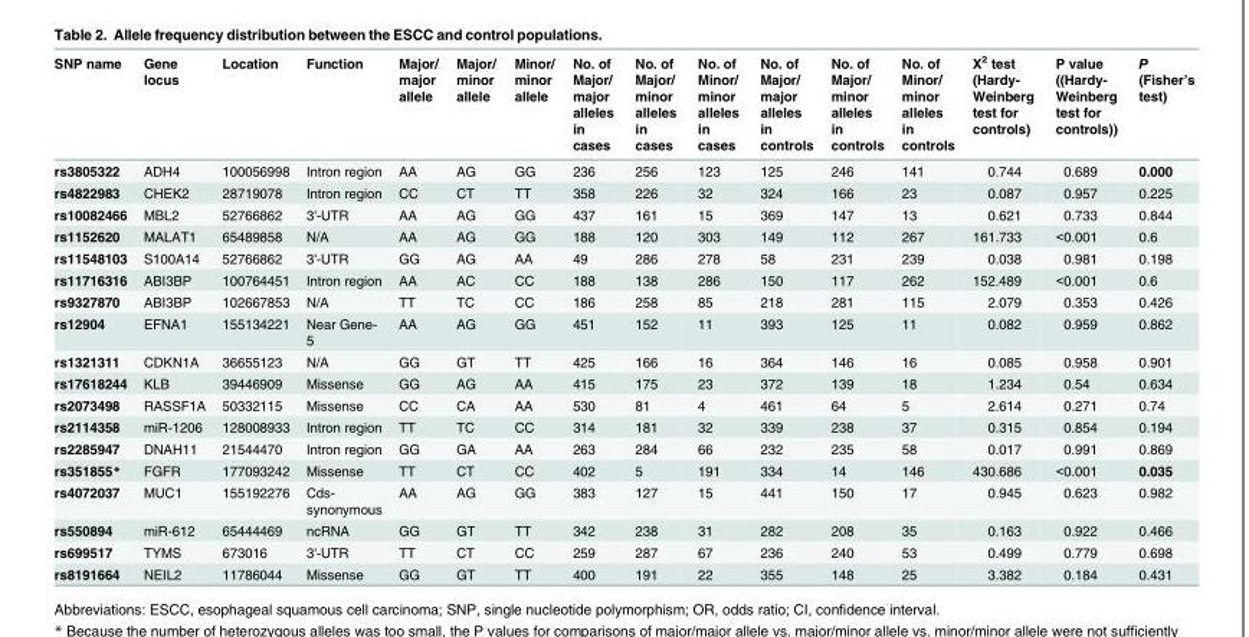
<table><thead><tr><td>SNP name</td><td>Gene locus</td><td>Location</td><td>Function</td><td>Major/ major allele</td><td>Major/ minor allele</td><td>Minor/ minor allele</td><td>No. of Major/ major alleles in cases</td><td>No. of Major/ minor alleles in cases</td><td>No. of Minor/ minor alleles in cases</td><td>No. of Major/ major alleles in controls</td><td>No. of Major/ minor alleles in controls</td><td>No. of Minor/ minor alleles in controls</td><td>X<sup>2</sup> test (Hardy- Weinberg test for controls)</td><td>P value ((Hardy- Weinberg test for controls))</td><td>P (Fisher’s test)</td></tr></thead><tbody><tr><td>rs3805322</td><td>ADH4</td><td>100056998</td><td>Intron region</td><td>AA</td><td>AG</td><td>GG</td><td>236</td><td>256</td><td>123</td><td>125</td><td>246</td><td>141</td><td>0.744</td><td>0.689</td><td>0.000</td></tr><tr><td>rs4822983</td><td>CHEK2</td><td>28719078</td><td>Intron region</td><td>CC</td><td>CT</td><td>TT</td><td>358</td><td>226</td><td>32</td><td>324</td><td>166</td><td>23</td><td>0.087</td><td>0.957</td><td>0.225</td></tr><tr><td>rs10082466</td><td>MBL2</td><td>52766862</td><td>3&#x27;-UTR</td><td>AA</td><td>AG</td><td>GG</td><td>437</td><td>161</td><td>15</td><td>369</td><td>147</td><td>13</td><td>0.621</td><td>0.733</td><td>0.844</td></tr><tr><td>rs1152620</td><td>MALAT1</td><td>65489858</td><td>N/A</td><td>AA</td><td>AG</td><td>GG</td><td>188</td><td>120</td><td>303</td><td>149</td><td>112</td><td>267</td><td>161.733</td><td>&lt;0.001</td><td>0.6</td></tr><tr><td>rs11548103</td><td>S100A14</td><td>52766862</td><td>3&#x27;-UTR</td><td>GG</td><td>AG</td><td>AA</td><td>49</td><td>286</td><td>278</td><td>58</td><td>231</td><td>239</td><td>0.038</td><td>0.981</td><td>0.198</td></tr><tr><td>rs11716316</td><td>ABI3BP</td><td>100764451</td><td>Intron region</td><td>AA</td><td>AC</td><td>CC</td><td>188</td><td>138</td><td>286</td><td>150</td><td>117</td><td>262</td><td>152.489</td><td>&lt;0.001</td><td>0.6</td></tr><tr><td>rs9327870</td><td>ABI3BP</td><td>102667853</td><td>N/A</td><td>TT</td><td>TC</td><td>CC</td><td>186</td><td>258</td><td>85</td><td>218</td><td>281</td><td>115</td><td>2.079</td><td>0.353</td><td>0.426</td></tr><tr><td>rs12904</td><td>EFNA1</td><td>155134221</td><td>Near Gene- 5</td><td>AA</td><td>AG</td><td>GG</td><td>451</td><td>152</td><td>11</td><td>393</td><td>125</td><td>11</td><td>0.082</td><td>0.959</td><td>0.862</td></tr><tr><td>rs1321311</td><td>CDKN1A</td><td>36655123</td><td>N/A</td><td>GG</td><td>GT</td><td>TT</td><td>425</td><td>166</td><td>16</td><td>364</td><td>146</td><td>16</td><td>0.085</td><td>0.958</td><td>0.901</td></tr><tr><td>rs17618244</td><td>KLB</td><td>39446909</td><td>Missense</td><td>GG</td><td>AG</td><td>AA</td><td>415</td><td>175</td><td>23</td><td>372</td><td>139</td><td>18</td><td>1.234</td><td>0.54</td><td>0.634</td></tr><tr><td>rs2073498</td><td>RASSF1A</td><td>50332115</td><td>Missense</td><td>CC</td><td>CA</td><td>AA</td><td>530</td><td>81</td><td>4</td><td>461</td><td>64</td><td>5</td><td>2.614</td><td>0.271</td><td>0.74</td></tr><tr><td>rs2114358</td><td>miR-1206</td><td>128008933</td><td>Intron region</td><td>TT</td><td>TC</td><td>CC</td><td>314</td><td>181</td><td>32</td><td>339</td><td>238</td><td>37</td><td>0.315</td><td>0.854</td><td>0.194</td></tr><tr><td>rs2285947</td><td>DNAH11</td><td>21544470</td><td>Intron region</td><td>GG</td><td>GA</td><td>AA</td><td>263</td><td>284</td><td>66</td><td>232</td><td>235</td><td>58</td><td>0.017</td><td>0.991</td><td>0.869</td></tr><tr><td>rs351855*</td><td>FGFR</td><td>177093242</td><td>Missense</td><td>TT</td><td>CT</td><td>CC</td><td>402</td><td>5</td><td>191</td><td>334</td><td>14</td><td>146</td><td>430.686</td><td>&lt;0.001</td><td>0.035</td></tr><tr><td>rs4072037</td><td>MUC1</td><td>155192276</td><td>Cds- synonymous</td><td>AA</td><td>AG</td><td>GG</td><td>383</td><td>127</td><td>15</td><td>441</td><td>150</td><td>17</td><td>0.945</td><td>0.623</td><td>0.982</td></tr><tr><td>rs550894</td><td>miR-612</td><td>65444469</td><td>ncRNA</td><td>GG</td><td>GT</td><td>TT</td><td>342</td><td>238</td><td>31</td><td>282</td><td>208</td><td>35</td><td>0.163</td><td>0.922</td><td>0.466</td></tr><tr><td>rs699517</td><td>TYMS</td><td>673016</td><td>3&#x27;-UTR</td><td>TT</td><td>CT</td><td>CC</td><td>259</td><td>287</td><td>67</td><td>236</td><td>240</td><td>53</td><td>0.499</td><td>0.779</td><td>0.698</td></tr><tr><td>rs8191664</td><td>NEIL2</td><td>11786044</td><td>Missense</td><td>GG</td><td>GT</td><td>TT</td><td>400</td><td>191</td><td>22</td><td>355</td><td>148</td><td>25</td><td>3.382</td><td>0.184</td><td>0.431</td></tr></tbody></table>